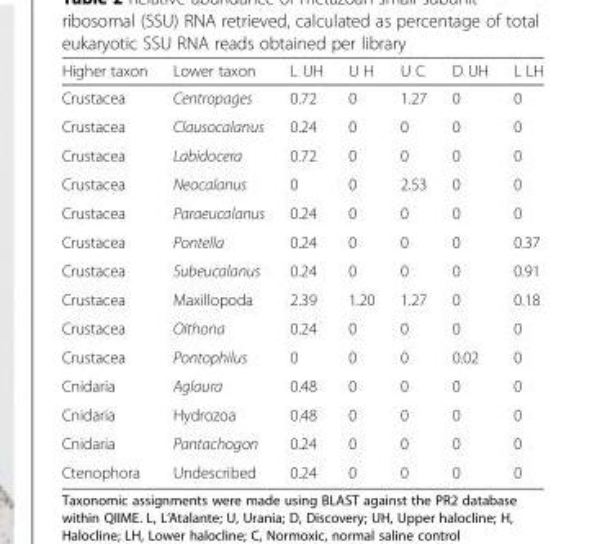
<table><thead><tr><td>Higher taxon</td><td>Lower taxon</td><td>L UH</td><td>U H</td><td>U C</td><td>D UH</td><td>L LH</td></tr></thead><tbody><tr><td>Crustacea</td><td>Centropages</td><td>0.72</td><td>0</td><td>1.27</td><td>0</td><td>0</td></tr><tr><td>Crustacea</td><td>Clausocalanus</td><td>0.24</td><td>0</td><td>0</td><td>0</td><td>0</td></tr><tr><td>Crustacea</td><td>Labidocera</td><td>0.72</td><td>0</td><td>0</td><td>0</td><td>0</td></tr><tr><td>Crustacea</td><td>Neocalanus</td><td>0</td><td>0</td><td>2.53</td><td>0</td><td>0</td></tr><tr><td>Crustacea</td><td>Paraeucalanus</td><td>0.24</td><td>0</td><td>0</td><td>0</td><td>0</td></tr><tr><td>Crustacea</td><td>Pontella</td><td>0.24</td><td>0</td><td>0</td><td>0</td><td>0.37</td></tr><tr><td>Crustacea</td><td>Subeucalanus</td><td>0.24</td><td>0</td><td>0</td><td>0</td><td>0.91</td></tr><tr><td>Crustacea</td><td>Maxillopoda</td><td>2.39</td><td>1.20</td><td>1.27</td><td>0</td><td>0.18</td></tr><tr><td>Crustacea</td><td>Oithona</td><td>0.24</td><td>0</td><td>0</td><td>0</td><td>0</td></tr><tr><td>Crustacea</td><td>Pontophilus</td><td>0</td><td>0</td><td>0</td><td>0.02</td><td>0</td></tr><tr><td>Cnidaria</td><td>Aglaura</td><td>0.48</td><td>0</td><td>0</td><td>0</td><td>0</td></tr><tr><td>Cnidaria</td><td>Hydrozoa</td><td>0.48</td><td>0</td><td>0</td><td>0</td><td>0</td></tr><tr><td>Cnidaria</td><td>Pantachogon</td><td>0.24</td><td>0</td><td>0</td><td>0</td><td>0</td></tr><tr><td>Ctenophora</td><td>Undescribed</td><td>0.24</td><td>0</td><td>0</td><td>0</td><td>0</td></tr></tbody></table>